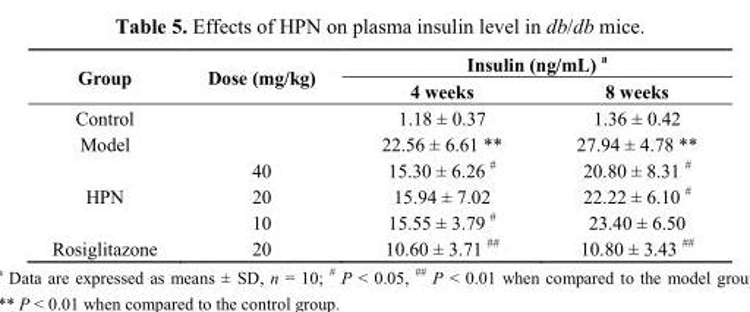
<table><thead><tr><td rowspan="2">Group</td><td rowspan="2">Dose (mg/kg)</td><td colspan="2">Insulin (ng/mL) <sup>a</sup></td></tr><tr><td>4 weeks</td><td>8 weeks</td></tr></thead><tbody><tr><td>Control</td><td></td><td>1.18 ± 0.37</td><td>1.36 ± 0.42</td></tr><tr><td rowspan="2">Model</td><td></td><td>22.56 ± 6.61 **</td><td>27.94 ± 4.78 **</td></tr><tr><td>40</td><td>15.30 ± 6.26 <sup>#</sup></td><td>20.80 ± 8.31 <sup>#</sup></td></tr><tr><td rowspan="2">HPN</td><td>20</td><td>15.94 ± 7.02</td><td>22.22 ± 6.10 <sup>#</sup></td></tr><tr><td>10</td><td>15.55 ± 3.79 <sup>#</sup></td><td>23.40 ± 6.50</td></tr><tr><td>Rosiglitazone</td><td>20</td><td>10.60 ± 3.71 <sup>##</sup></td><td>10.80 ± 3.43 <sup>##</sup></td></tr></tbody></table>